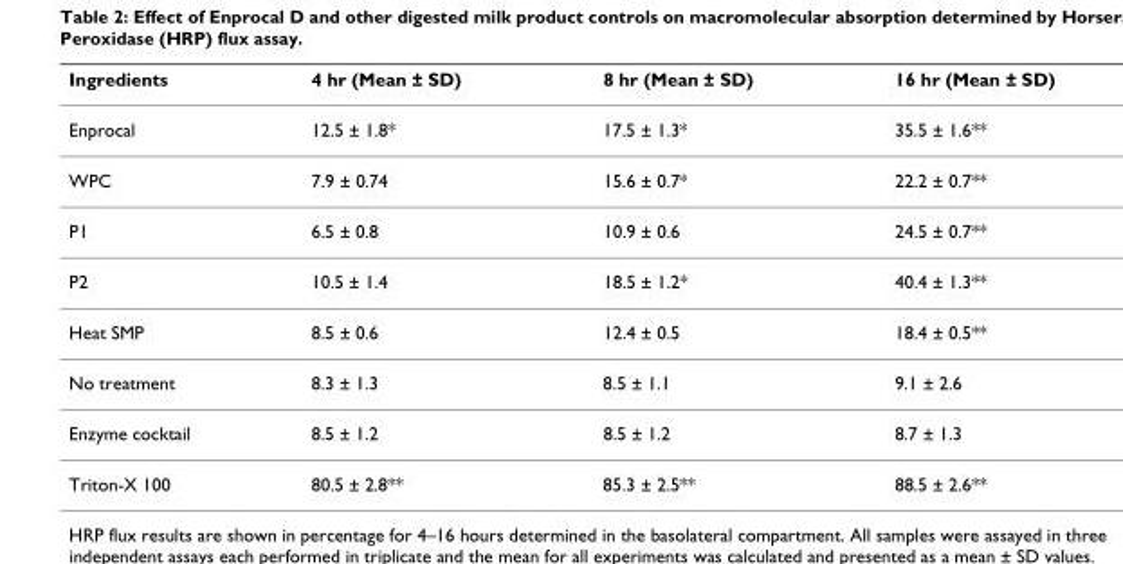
<table><thead><tr><td>Ingredients</td><td>4 hr (Mean ± SD)</td><td>8 hr (Mean ± SD)</td><td>16 hr (Mean ± SD)</td></tr></thead><tbody><tr><td>Enprocal</td><td>12.5 ± 1.8*</td><td>17.5 ± 1.3*</td><td>35.5 ± 1.6**</td></tr><tr><td>WPC</td><td>7.9 ± 0.74</td><td>15.6 ± 0.7*</td><td>22.2 ± 0.7**</td></tr><tr><td>P1</td><td>6.5 ± 0.8</td><td>10.9 ± 0.6</td><td>24.5 ± 0.7**</td></tr><tr><td>P2</td><td>10.5 ± 1.4</td><td>18.5 ± 1.2*</td><td>40.4 ± 1.3**</td></tr><tr><td>Heat SMP</td><td>8.5 ± 0.6</td><td>12.4 ± 0.5</td><td>18.4 ± 0.5**</td></tr><tr><td>No treatment</td><td>8.3 ± 1.3</td><td>8.5 ± 1.1</td><td>9.1 ± 2.6</td></tr><tr><td>Enzyme cocktail</td><td>8.5 ± 1.2</td><td>8.5 ± 1.2</td><td>8.7 ± 1.3</td></tr><tr><td>Triton-X 100</td><td>80.5 ± 2.8**</td><td>85.3 ± 2.5**</td><td>88.5 ± 2.6**</td></tr></tbody></table>